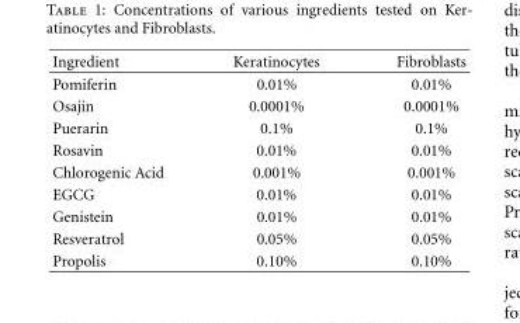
<table><thead><tr><td>Ingredient</td><td>Keratinocytes</td><td>Fibroblasts</td></tr></thead><tbody><tr><td>Pomiferin</td><td>0.01%</td><td>0.01%</td></tr><tr><td>Osajin</td><td>0.0001%</td><td>0.0001%</td></tr><tr><td>Puerarin</td><td>0.1%</td><td>0.1%</td></tr><tr><td>Rosavin</td><td>0.01%</td><td>0.01%</td></tr><tr><td>Chlorogenic Acid</td><td>0.001%</td><td>0.001%</td></tr><tr><td>EGCG</td><td>0.01%</td><td>0.01%</td></tr><tr><td>Genistein</td><td>0.01%</td><td>0.01%</td></tr><tr><td>Resveratrol</td><td>0.05%</td><td>0.05%</td></tr><tr><td>Propolis</td><td>0.10%</td><td>0.10%</td></tr></tbody></table>